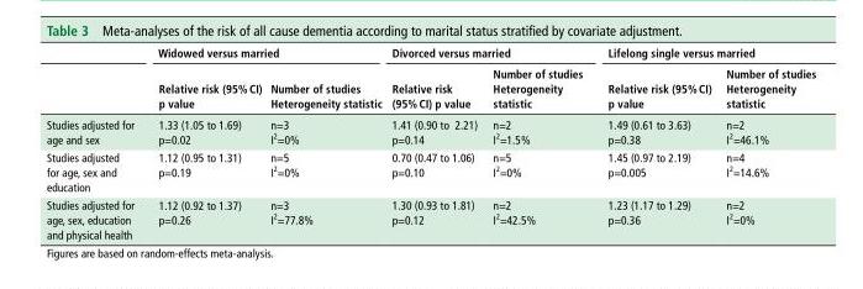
<table><thead><tr><td rowspan="2"></td><td colspan="2">Widowed versus married</td><td colspan="2">divorced versus married</td><td colspan="2">lifelong single versus married</td></tr><tr><td>relative risk (95% CI) p value</td><td>number of studies heterogeneity statistic</td><td>relative risk (95% CI) p value</td><td>number of studies heterogeneity statistic</td><td>relative risk (95% CI) p value</td><td>number of studies heterogeneity statistic</td></tr></thead><tbody><tr><td>Studies adjusted for age and sex</td><td>1.33 (1.05 to 1.69) p=0.02</td><td>n=3 I<sup>2</sup>=0%</td><td>1.41 (0.90 to 2.21) p=0.14</td><td>n=2 I<sup>2</sup>=1.5%</td><td>1.49 (0.61 to 3.63) p=0.38</td><td>n=2 I<sup>2</sup>=46.1%</td></tr><tr><td>Studies adjusted for age, sex and education</td><td>1.12 (0.95 to 1.31) p=0.19</td><td>n=5 I<sup>2</sup>=0%</td><td>0.70 (0.47 to 1.06) p=0.10</td><td>n=5 I<sup>2</sup>=0%</td><td>1.45 (0.97 to 2.19) p=0.005</td><td>n=4 I<sup>2</sup>=14.6%</td></tr><tr><td>Studies adjusted for age, sex, education and physical health</td><td>1.12 (0.92 to 1.37) p=0.26</td><td>n=3 I<sup>2</sup>=77.8%</td><td>1.30 (0.93 to 1.81) p=0.12</td><td>n=2 I<sup>2</sup>=42.5%</td><td>1.23 (1.17 to 1.29) p=0.36</td><td>n=2 I<sup>2</sup>=0%</td></tr></tbody></table>